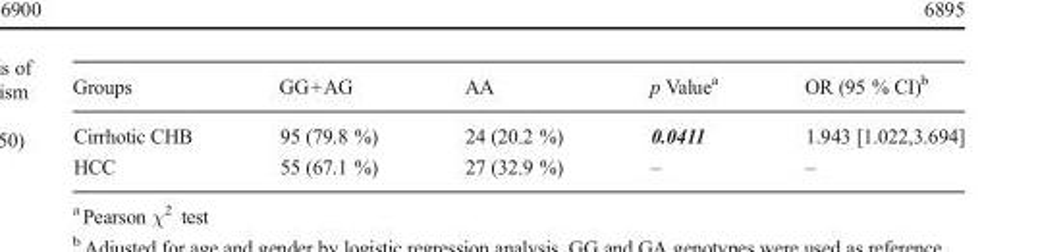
<table><thead><tr><td>Groups</td><td>GG+AG</td><td>AA</td><td>p Value<sup>a</sup></td><td>OR (95 % CI)<sup>b</sup></td></tr></thead><tbody><tr><td>Cirrhotic CHB</td><td>95 (79.8 %)</td><td>24 (20.2 %)</td><td>0.0411</td><td>1.943 [1.022,3.694]</td></tr><tr><td>HCC</td><td>55 (67.1 %)</td><td>27 (32.9 %)</td><td>–</td><td>–</td></tr></tbody></table>